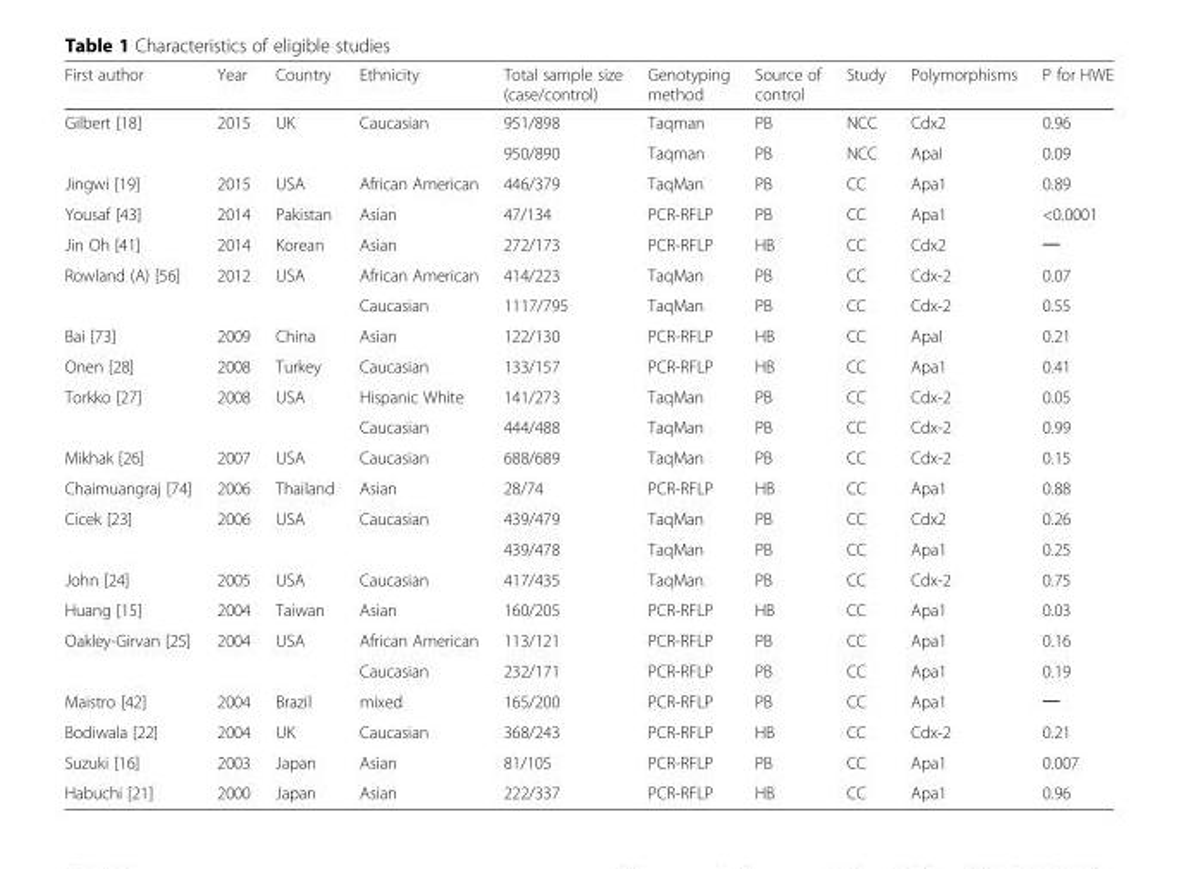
<table><thead><tr><td>First author</td><td>Year</td><td>Country</td><td>Ethnicity</td><td>Total sample size (case/control)</td><td>Genotyping method</td><td>Source of control</td><td>Study</td><td>Polymorphisms</td><td>P for HWE</td></tr></thead><tbody><tr><td rowspan="2">Gilbert [18]</td><td>2015</td><td>UK</td><td>Caucasian</td><td>951/898</td><td>Taqman</td><td>PB</td><td>NCC</td><td>Cdx2</td><td>0.96</td></tr><tr><td></td><td></td><td></td><td>950/890</td><td>Taqman</td><td>PB</td><td>NCC</td><td>ApaI</td><td>0.09</td></tr><tr><td>Jingwi [19]</td><td>2015</td><td>USA</td><td>African American</td><td>446/379</td><td>TaqMan</td><td>PB</td><td>CC</td><td>Apa1</td><td>0.89</td></tr><tr><td>Yousaf [43]</td><td>2014</td><td>Pakistan</td><td>Asian</td><td>47/134</td><td>PCR-RFLP</td><td>PB</td><td>CC</td><td>Apa1</td><td>&lt;0.0001</td></tr><tr><td>Jin Oh [41]</td><td>2014</td><td>Korean</td><td>Asian</td><td>272/173</td><td>PCR-RFLP</td><td>HB</td><td>CC</td><td>Cdx2</td><td>─</td></tr><tr><td rowspan="2">Rowland (A) [56]</td><td>2012</td><td>USA</td><td>African American</td><td>414/223</td><td>TaqMan</td><td>PB</td><td>CC</td><td>Cdx-2</td><td>0.07</td></tr><tr><td></td><td></td><td>Caucasian</td><td>1117/795</td><td>TaqMan</td><td>PB</td><td>CC</td><td>Cdx-2</td><td>0.55</td></tr><tr><td>Bai [73]</td><td>2009</td><td>China</td><td>Asian</td><td>122/130</td><td>PCR-RFLP</td><td>HB</td><td>CC</td><td>ApaI</td><td>0.21</td></tr><tr><td>Onen [28]</td><td>2008</td><td>Turkey</td><td>Caucasian</td><td>133/157</td><td>PCR-RFLP</td><td>HB</td><td>CC</td><td>Apa1</td><td>0.41</td></tr><tr><td rowspan="2">Torkko [27]</td><td>2008</td><td>USA</td><td>Hispanic White</td><td>141/273</td><td>TaqMan</td><td>PB</td><td>CC</td><td>Cdx-2</td><td>0.05</td></tr><tr><td></td><td></td><td>Caucasian</td><td>444/488</td><td>TaqMan</td><td>PB</td><td>CC</td><td>Cdx-2</td><td>0.99</td></tr><tr><td>Mikhak [26]</td><td>2007</td><td>USA</td><td>Caucasian</td><td>688/689</td><td>TaqMan</td><td>PB</td><td>CC</td><td>Cdx-2</td><td>0.15</td></tr><tr><td>Chaimuangraj [74]</td><td>2006</td><td>Thailand</td><td>Asian</td><td>28/74</td><td>PCR-RFLP</td><td>HB</td><td>CC</td><td>Apa1</td><td>0.88</td></tr><tr><td rowspan="2">Cicek [23]</td><td>2006</td><td>USA</td><td>Caucasian</td><td>439/479</td><td>TaqMan</td><td>PB</td><td>CC</td><td>Cdx2</td><td>0.26</td></tr><tr><td></td><td></td><td></td><td>439/478</td><td>TaqMan</td><td>PB</td><td>CC</td><td>Apa1</td><td>0.25</td></tr><tr><td>John [24]</td><td>2005</td><td>USA</td><td>Caucasian</td><td>417/435</td><td>TaqMan</td><td>PB</td><td>CC</td><td>Cdx-2</td><td>0.75</td></tr><tr><td>Huang [15]</td><td>2004</td><td>Taiwan</td><td>Asian</td><td>160/205</td><td>PCR-RFLP</td><td>HB</td><td>CC</td><td>Apa1</td><td>0.03</td></tr><tr><td rowspan="2">Oakley-Girvan [25]</td><td>2004</td><td>USA</td><td>African American</td><td>113/121</td><td>PCR-RFLP</td><td>PB</td><td>CC</td><td>Apa1</td><td>0.16</td></tr><tr><td></td><td></td><td>Caucasian</td><td>232/171</td><td>PCR-RFLP</td><td>PB</td><td>CC</td><td>Apa1</td><td>0.19</td></tr><tr><td>Maistro [42]</td><td>2004</td><td>Brazil</td><td>mixed</td><td>165/200</td><td>PCR-RFLP</td><td>PB</td><td>CC</td><td>Apa1</td><td>─</td></tr><tr><td>Bodiwala [22]</td><td>2004</td><td>UK</td><td>Caucasian</td><td>368/243</td><td>PCR-RFLP</td><td>HB</td><td>CC</td><td>Cdx-2</td><td>0.21</td></tr><tr><td>Suzuki [16]</td><td>2003</td><td>Japan</td><td>Asian</td><td>81/105</td><td>PCR-RFLP</td><td>PB</td><td>CC</td><td>Apa1</td><td>0.007</td></tr><tr><td>Habuchi [21]</td><td>2000</td><td>Japan</td><td>Asian</td><td>222/337</td><td>PCR-RFLP</td><td>HB</td><td>CC</td><td>Apa1</td><td>0.96</td></tr></tbody></table>